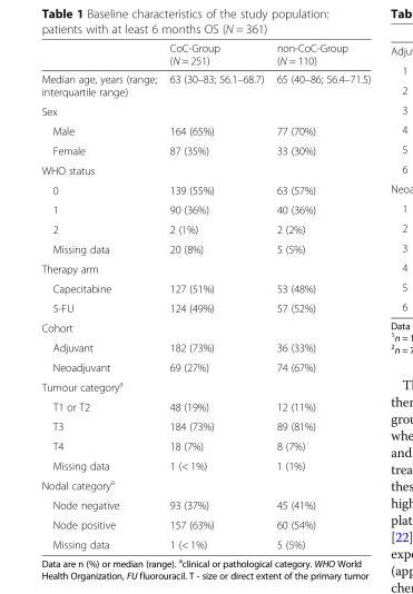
<table><thead><tr><td></td><td>CoC-Group (N = 251)</td><td>non-CoC-Group (N = 110)</td></tr></thead><tbody><tr><td>Median age, years (range; interquartile range)</td><td>63 (30–83; 56.1–68.7)</td><td>65 (40–86; 56.4–71.5)</td></tr><tr><td colspan="3">Sex</td></tr><tr><td>Male</td><td>164 (65%)</td><td>77 (70%)</td></tr><tr><td>Female</td><td>87 (35%)</td><td>33 (30%)</td></tr><tr><td colspan="3">WHO status</td></tr><tr><td>0</td><td>139 (55%)</td><td>63 (57%)</td></tr><tr><td>1</td><td>90 (36%)</td><td>40 (36%)</td></tr><tr><td>2</td><td>2 (1%)</td><td>2 (2%)</td></tr><tr><td>Missing data</td><td>20 (8%)</td><td>5 (5%)</td></tr><tr><td colspan="3">Therapy arm</td></tr><tr><td>Capecitabine</td><td>127 (51%)</td><td>53 (48%)</td></tr><tr><td>5-FU</td><td>124 (49%)</td><td>57 (52%)</td></tr><tr><td colspan="3">Cohort</td></tr><tr><td>Adjuvant</td><td>182 (73%)</td><td>36 (33%)</td></tr><tr><td>Neoadjuvant</td><td>69 (27%)</td><td>74 (67%)</td></tr><tr><td colspan="3">Tumour category<sup>a</sup></td></tr><tr><td>T1 or T2</td><td>48 (19%)</td><td>12 (11%)</td></tr><tr><td>T3</td><td>184 (73%)</td><td>89 (81%)</td></tr><tr><td>T4</td><td>18 (7%)</td><td>8 (7%)</td></tr><tr><td>Missing data</td><td>1 (&lt; 1%)</td><td>1 (1%)</td></tr><tr><td colspan="3">Nodal category<sup>a</sup></td></tr><tr><td>Node negative</td><td>93 (37%)</td><td>45 (41%)</td></tr><tr><td>Node positive</td><td>157 (63%)</td><td>60 (54%)</td></tr><tr><td>Missing data</td><td>1 (&lt; 1%)</td><td>5 (5%)</td></tr></tbody></table>